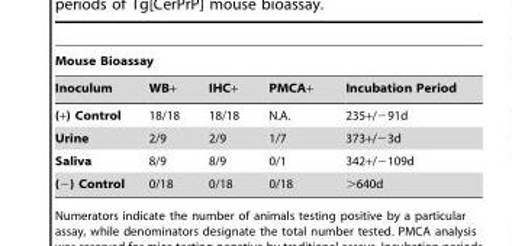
<table><thead><tr><td colspan="5">Mouse Bioassay</td></tr><tr><td>Inoculum</td><td>WB+</td><td>IHC+</td><td>PMCA+</td><td>Incubation Period</td></tr></thead><tbody><tr><td>(+) Control</td><td>18/18</td><td>18/18</td><td>N.A.</td><td>235+/−91d</td></tr><tr><td>Urine</td><td>2/9</td><td>2/9</td><td>1/7</td><td>373+/−3d</td></tr><tr><td>Saliva</td><td>8/9</td><td>8/9</td><td>0/1</td><td>342+/−109d</td></tr><tr><td>(−) Control</td><td>0/18</td><td>0/18</td><td>0/18</td><td>&gt;640d</td></tr></tbody></table>